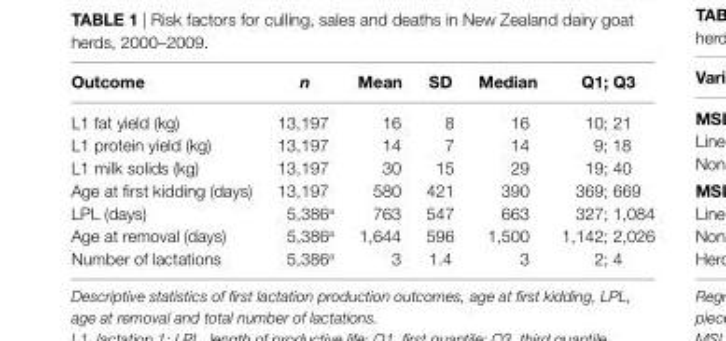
<table><thead><tr><td>Outcome</td><td>n</td><td>Mean</td><td>sD</td><td>Median</td><td>Q1; Q3</td></tr></thead><tbody><tr><td>L1 fat yield (kg)</td><td>13,197</td><td>16</td><td>8</td><td>16</td><td>10; 21</td></tr><tr><td>L1 protein yield (kg)</td><td>13,197</td><td>14</td><td>7</td><td>14</td><td>9; 18</td></tr><tr><td>L1 milk solids (kg)</td><td>13,197</td><td>30</td><td>15</td><td>29</td><td>19; 40</td></tr><tr><td>Age at first kidding (days)</td><td>13,197</td><td>580</td><td>421</td><td>390</td><td>369; 669</td></tr><tr><td>LPL (days)</td><td>5,386<sup>a</sup></td><td>763</td><td>547</td><td>663</td><td>327; 1,084</td></tr><tr><td>Age at removal (days)</td><td>5,386<sup>a</sup></td><td>1,644</td><td>596</td><td>1,500</td><td>1,142; 2,026</td></tr><tr><td>Number of lactations</td><td>5,386<sup>a</sup></td><td>3</td><td>1.4</td><td>3</td><td>2; 4</td></tr></tbody></table>